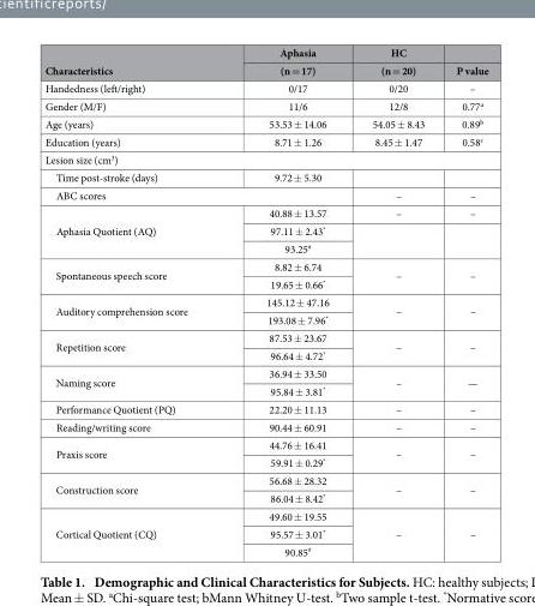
<table><thead><tr><td rowspan="2">Characteristics</td><td rowspan="2">Aphasia (n = 17)</td><td rowspan="2">HC (n = 20)</td><td rowspan="2">P value</td></tr><tr></tr></thead><tbody><tr><td>Handedness (left/right)</td><td>0/17</td><td>0/20</td><td>–</td></tr><tr><td>Gender (M/F)</td><td>11/6</td><td>12/8</td><td>0.77<sup>a</sup></td></tr><tr><td>Age (years)</td><td>53.53 ± 14.06</td><td>54.05 ± 8.43</td><td>0.89<sup>b</sup></td></tr><tr><td>Education (years)</td><td>8.71 ± 1.26</td><td>8.45 ± 1.47</td><td>0.58<sup>c</sup></td></tr><tr><td colspan="4">Lesion size (cm<sup>3</sup>)</td></tr><tr><td>Time post-stroke (days)</td><td>9.72 ± 5.30</td><td></td><td></td></tr><tr><td colspan="2">ABC scores</td><td>–</td><td>–</td></tr><tr><td rowspan="3">Aphasia Quotient (AQ)</td><td>40.88 ± 13.57</td><td>–</td><td>–</td></tr><tr><td>97.11 ± 2.43*</td><td rowspan="2"></td><td rowspan="2"></td></tr><tr><td>93.25#</td></tr><tr><td rowspan="2">Spontaneous speech score</td><td>8.82 ± 6.74</td><td rowspan="2">–</td><td rowspan="2">–</td></tr><tr><td>19.65 ± 0.66*</td></tr><tr><td rowspan="2">Auditory comprehension score</td><td>145.12 ± 47.16</td><td rowspan="2">–</td><td rowspan="2">–</td></tr><tr><td>193.08 ± 7.96*</td></tr><tr><td rowspan="2">Repetition score</td><td>87.53 ± 23.67</td><td rowspan="2">–</td><td rowspan="2">–</td></tr><tr><td>96.64 ± 4.72*</td></tr><tr><td rowspan="2">Naming score</td><td>36.94 ± 33.50</td><td rowspan="2">–</td><td rowspan="2">—</td></tr><tr><td>95.84 ± 3.81*</td></tr><tr><td>Performance Quotient (PQ)</td><td>22.20 ± 11.13</td><td>–</td><td>–</td></tr><tr><td>Reading/writing score</td><td>90.44 ± 60.91</td><td>–</td><td>–</td></tr><tr><td rowspan="2">Praxis score</td><td>44.76 ± 16.41</td><td rowspan="2">–</td><td rowspan="2">–</td></tr><tr><td>59.91 ± 0.29*</td></tr><tr><td rowspan="2">Construction score</td><td>56.68 ± 28.32</td><td rowspan="2">–</td><td rowspan="2">–</td></tr><tr><td>86.04 ± 8.42*</td></tr><tr><td rowspan="3">Cortical Quotient (CQ)</td><td>49.60 ± 19.55</td><td rowspan="3">–</td><td rowspan="3">–</td></tr><tr><td>95.57 ± 3.01*</td></tr><tr><td>90.85#</td></tr></tbody></table>